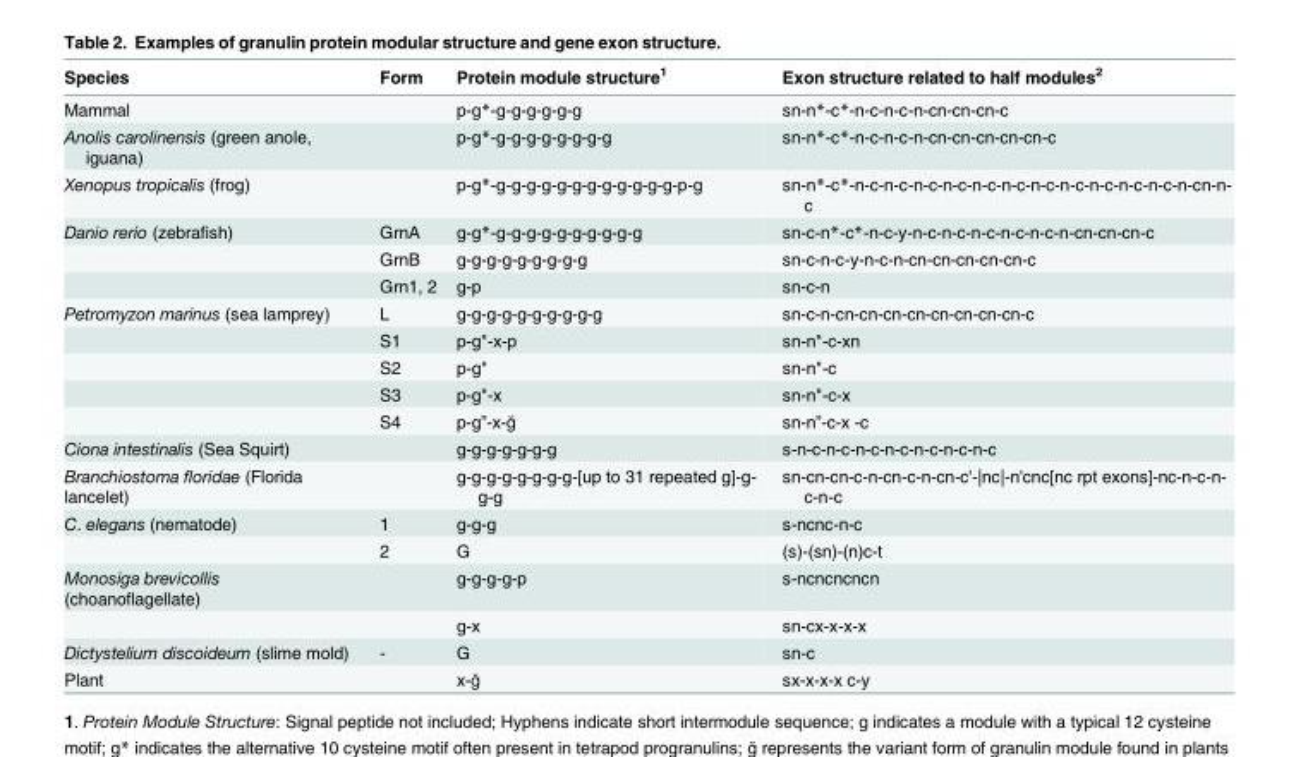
<table><thead><tr><td>Species</td><td>Form</td><td>Protein module structure<sup>1</sup></td><td>Exon structure related to half modules<sup>2</sup></td></tr></thead><tbody><tr><td>Mammal</td><td></td><td>p-g*-g-g-g-g-g-g</td><td>sn-n*-c*-n-c-n-c-n-cn-cn-cn-c</td></tr><tr><td>Anolis carolinensis (green anole, iguana)</td><td></td><td>p-g*-g-g-g-g-g-g-g-g</td><td>sn-n*-c*-n-c-n-c-n-cn-cn-cn-cn-cn-c</td></tr><tr><td>Xenopus tropicalis (frog)</td><td></td><td>p-g*-g-g-g-g-g-g-g-g-g-g-g-g-p-g</td><td>sn-n*-c*-n-c-n-c-n-c-n-c-n-c-n-c-n-c-n-c-n-c-n-c-n-c-n-cn-n- c</td></tr><tr><td rowspan="3">Danio rerio (zebrafish)</td><td>GrnA</td><td>g-g*-g-g-g-g-g-g-g-g-g-g</td><td>sn-c-n*-c*-n-c-y-n-c-n-c-n-c-n-c-n-c-n-cn-cn-cn-c</td></tr><tr><td>GrnB</td><td>g-g-g-g-g-g-g-g-g</td><td>sn-c-n-c-y-n-c-n-cn-cn-cn-cn-cn-c</td></tr><tr><td>Grn1, 2</td><td>g-p</td><td>sn-c-n</td></tr><tr><td rowspan="5">Petromyzon marinus (sea lamprey)</td><td>L</td><td>g-g-g-g-g-g-g-g-g-g</td><td>sn-c-n-cn-cn-cn-cn-cn-cn-cn-cn-c</td></tr><tr><td>S1</td><td>p-g&quot;-x-p</td><td>sn-n&quot;-c-xn</td></tr><tr><td>S2</td><td>p-g&quot;</td><td>sn-n&quot;-c</td></tr><tr><td>S3</td><td>p-g&quot;-x</td><td>sn-n&quot;-c-x</td></tr><tr><td>S4</td><td>p-g”-x-ğ</td><td>sn-n”-c-xň-c</td></tr><tr><td>Ciona intestinalis (Sea Squirt)</td><td></td><td>g-g-g-g-g-g-g</td><td>s-n-c-n-c-n-c-n-c-n-c-n-c-n-c</td></tr><tr><td>Branchiostoma floridae (Florida lancelet)</td><td></td><td>g-g-g-g-g-g-g-g-[up to 31 repeated g]-g- g-g</td><td>sn-cn-cn-c-n-cn-c-n-cn-c&#x27;-|nc|-n&#x27;cnc[nc rpt exons]-nc-n-c-n- c-n-c</td></tr><tr><td rowspan="2">C. elegans (nematode)</td><td>1</td><td>g-g-g</td><td>s-ncnc-n-c</td></tr><tr><td>2</td><td>G</td><td>(s)-(sn)-(n)c-t</td></tr><tr><td rowspan="2">Monosiga brevicollis (choanoflagellate)</td><td></td><td>g-g-g-g-p</td><td>s-ncncncncn</td></tr><tr><td></td><td>g-x</td><td>sn-cx-x-x-x</td></tr><tr><td>Dictystelium discoideum (slime mold)</td><td>-</td><td>G</td><td>sn-c</td></tr><tr><td>Plant</td><td></td><td>x-ğ</td><td>sx-x-x-xňc-y</td></tr></tbody></table>